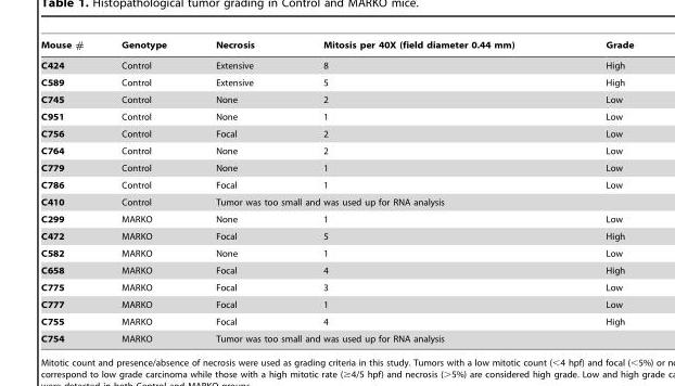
<table><thead><tr><td>Mouse #</td><td>Genotype</td><td>Necrosis</td><td>Mitosis per 40X (field diameter 0.44 mm)</td><td>Grade</td></tr></thead><tbody><tr><td>C424</td><td>Control</td><td>Extensive</td><td>8</td><td>High</td></tr><tr><td>C589</td><td>Control</td><td>Extensive</td><td>5</td><td>High</td></tr><tr><td>C745</td><td>Control</td><td>None</td><td>2</td><td>Low</td></tr><tr><td>C951</td><td>Control</td><td>None</td><td>1</td><td>Low</td></tr><tr><td>C756</td><td>Control</td><td>Focal</td><td>2</td><td>Low</td></tr><tr><td>C764</td><td>Control</td><td>None</td><td>2</td><td>Low</td></tr><tr><td>C779</td><td>Control</td><td>None</td><td>1</td><td>Low</td></tr><tr><td>C786</td><td>Control</td><td>Focal</td><td>1</td><td>Low</td></tr><tr><td>C410</td><td>Control</td><td colspan="3">Tumor was too small and was used up for RNA analysis</td></tr><tr><td>C299</td><td>MARKO</td><td>None</td><td>1</td><td>Low</td></tr><tr><td>C472</td><td>MARKO</td><td>Focal</td><td>5</td><td>High</td></tr><tr><td>C582</td><td>MARKO</td><td>None</td><td>1</td><td>Low</td></tr><tr><td>C658</td><td>MARKO</td><td>Focal</td><td>4</td><td>High</td></tr><tr><td>C775</td><td>MARKO</td><td>Focal</td><td>3</td><td>Low</td></tr><tr><td>C777</td><td>MARKO</td><td>Focal</td><td>1</td><td>Low</td></tr><tr><td>C755</td><td>MARKO</td><td>Focal</td><td>4</td><td>High</td></tr><tr><td>C754</td><td>MARKO</td><td colspan="3">Tumor was too small and was used up for RNA analysis</td></tr></tbody></table>